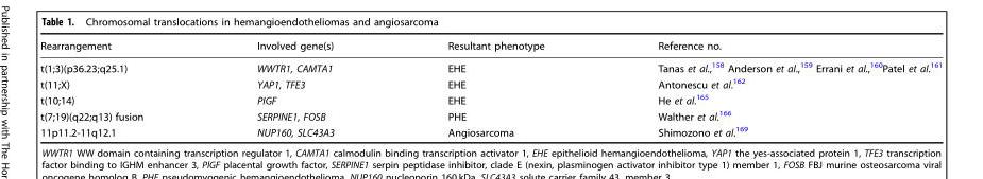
<table><thead><tr><td>Rearrangement</td><td>Involved gene(s)</td><td>Resultant phenotype</td><td>Reference no.</td></tr></thead><tbody><tr><td>t(1;3)(p36.23;q25.1)</td><td>WWTR1, CAMTA1</td><td>EHE</td><td>Tanas et al.,<sup>158</sup> Anderson et al.,<sup>159</sup> Errani et al.,<sup>160</sup>Patel et al.<sup>161</sup></td></tr><tr><td>t(11;X)</td><td>YAP1, TFE3</td><td>EHE</td><td>Antonescu et al.<sup>162</sup></td></tr><tr><td>t(10;14)</td><td>PIGF</td><td>EHE</td><td>He et al.<sup>165</sup></td></tr><tr><td>t(7;19)(q22;q13) fusion</td><td>SERPINE1, FOSB</td><td>PHE</td><td>Walther et al.<sup>166</sup></td></tr><tr><td>11p11.2-11q12.1</td><td>NUP160, SLC43A3</td><td>Angiosarcoma</td><td>Shimozono et al.<sup>169</sup></td></tr></tbody></table>